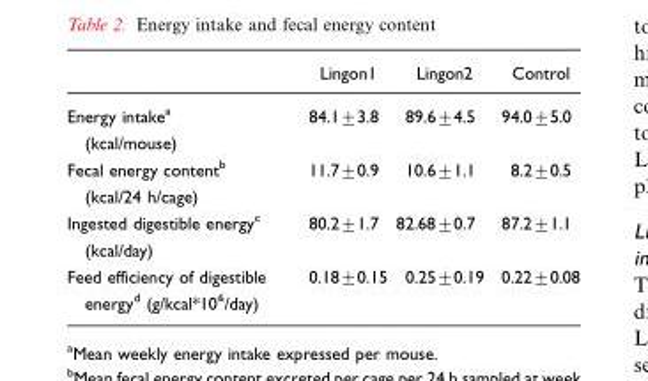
<table><thead><tr><td></td><td>Lingon1</td><td>Lingon2</td><td>Control</td></tr></thead><tbody><tr><td>Energy intake<sup>a</sup> (kcal/mouse)</td><td>84.1±3.8</td><td>89.6±4.5</td><td>94.0±5.0</td></tr><tr><td>Fecal energy content<sup>b</sup> (kcal/24 h/cage)</td><td>11.7±0.9</td><td>10.6±1.1</td><td>8.2±0.5</td></tr><tr><td>Ingested digestible energy<sup>c</sup> (kcal/day)</td><td>80.2±1.7</td><td>82.68±0.7</td><td>87.2±1.1</td></tr><tr><td>Feed efficiency of digestible energy<sup>d</sup> (g/kcal*10<sup>6</sup>/day)</td><td>0.18±0.15</td><td>0.25±0.19</td><td>0.22±0.08</td></tr></tbody></table>